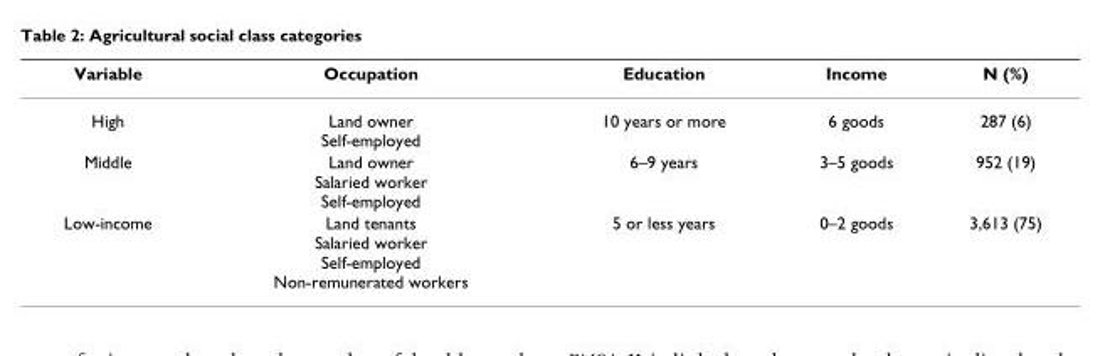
<table><thead><tr><td>Variable</td><td>Occupation</td><td>Education</td><td>Income</td><td>N (%)</td></tr></thead><tbody><tr><td>High</td><td>Land owner Self-employed</td><td>10 years or more</td><td>6 goods</td><td>287 (6)</td></tr><tr><td>Middle</td><td>Land owner Salaried worker Self-employed</td><td>6–9 years</td><td>3–5 goods</td><td>952 (19)</td></tr><tr><td>Low-income</td><td>Land tenants Salaried worker Self-employed Non-remunerated workers</td><td>5 or less years</td><td>0–2 goods</td><td>3,613 (75)</td></tr></tbody></table>